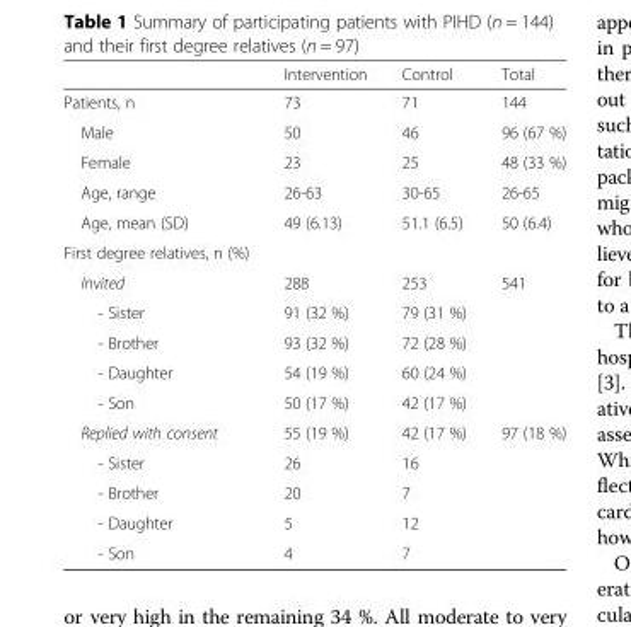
<table><thead><tr><td></td><td>Intervention</td><td>Control</td><td>Total</td></tr></thead><tbody><tr><td>Patients, n</td><td>73</td><td>71</td><td>144</td></tr><tr><td>Male</td><td>50</td><td>46</td><td>96 (67 %)</td></tr><tr><td>Female</td><td>23</td><td>25</td><td>48 (33 %)</td></tr><tr><td>Age, range</td><td>26-63</td><td>30-65</td><td>26-65</td></tr><tr><td>Age, mean (SD)</td><td>49 (6.13)</td><td>51.1 (6.5)</td><td>50 (6.4)</td></tr><tr><td colspan="4">First degree relatives, n (%)</td></tr><tr><td>Invited</td><td>288</td><td>253</td><td>541</td></tr><tr><td>- Sister</td><td>91 (32 %)</td><td>79 (31 %)</td><td></td></tr><tr><td>- Brother</td><td>93 (32 %)</td><td>72 (28 %)</td><td></td></tr><tr><td>- Daughter</td><td>54 (19 %)</td><td>60 (24 %)</td><td></td></tr><tr><td>- Son</td><td>50 (17 %)</td><td>42 (17 %)</td><td></td></tr><tr><td>Replied with consent</td><td>55 (19 %)</td><td>42 (17 %)</td><td>97 (18 %)</td></tr><tr><td>- Sister</td><td>26</td><td>16</td><td></td></tr><tr><td>- Brother</td><td>20</td><td>7</td><td></td></tr><tr><td>- Daughter</td><td>5</td><td>12</td><td></td></tr><tr><td>- Son</td><td>4</td><td>7</td><td></td></tr></tbody></table>